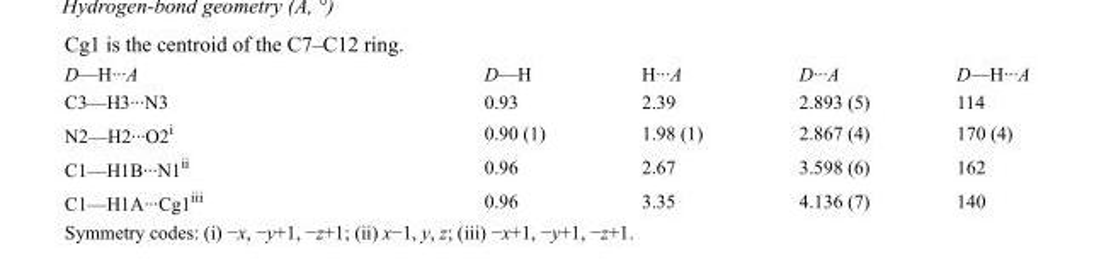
<table><tbody><tr><td>D—H···A</td><td>D—H</td><td>H···A</td><td>D···A</td><td>D—H···A</td></tr><tr><td>C3—H3···N3</td><td>0.93</td><td>2.39</td><td>2.893 (5)</td><td>114</td></tr><tr><td>N2—H2···O2<sup>i</sup></td><td>0.90 (1)</td><td>1.98 (1)</td><td>2.867 (4)</td><td>170 (4)</td></tr><tr><td>C1—H1B···N1<sup>ii</sup></td><td>0.96</td><td>2.67</td><td>3.598 (6)</td><td>162</td></tr><tr><td>C1—H1A···Cg1<sup>iii</sup></td><td>0.96</td><td>3.35</td><td>4.136 (7)</td><td>140</td></tr></tbody></table>